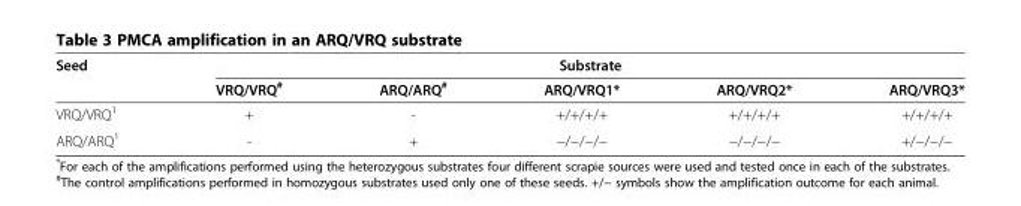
<table><thead><tr><td rowspan="2">Seed</td><td colspan="5">Substrate</td></tr><tr><td>VRQ/VRQ<sup>#</sup></td><td>ARQ/ARQ<sup>#</sup></td><td>ARQ/VRQ1*</td><td>ARQ/VRQ2*</td><td>ARQ/VRQ3*</td></tr></thead><tbody><tr><td>VRQ/VRQ<sup>1</sup></td><td>+</td><td>-</td><td>+/+/+/+</td><td>+/+/+/+</td><td>+/+/+/+</td></tr><tr><td>ARQ/ARQ<sup>1</sup></td><td>-</td><td>+</td><td>−/−/−/−</td><td>−/−/−/−</td><td>+/−/−/−</td></tr></tbody></table>